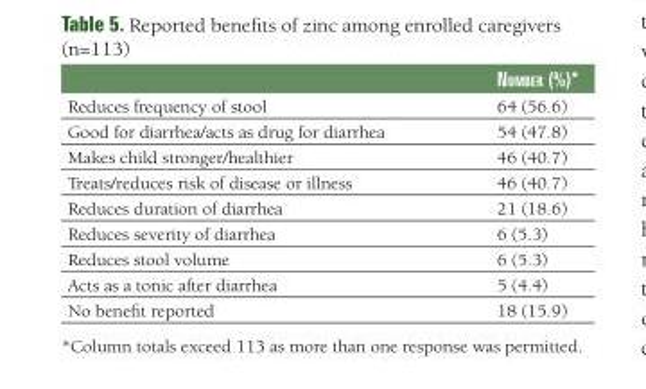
<table><thead><tr><td></td><td>Number (%)*</td></tr></thead><tbody><tr><td>Reduces frequency of stool</td><td>64 (56.6)</td></tr><tr><td>Good for diarrhea/acts as drug for diarrhea</td><td>54 (47.8)</td></tr><tr><td>Makes child stronger/healthier</td><td>46 (40.7)</td></tr><tr><td>Treats/reduces risk of disease or illness</td><td>46 (40.7)</td></tr><tr><td>Reduces duration of diarrhea</td><td>21 (18.6)</td></tr><tr><td>Reduces severity of diarrhea</td><td>6 (5.3)</td></tr><tr><td>Reduces stool volume</td><td>6 (5.3)</td></tr><tr><td>Acts as a tonic after diarrhea</td><td>5 (4.4)</td></tr><tr><td>No benefit reported</td><td>18 (15.9)</td></tr></tbody></table>